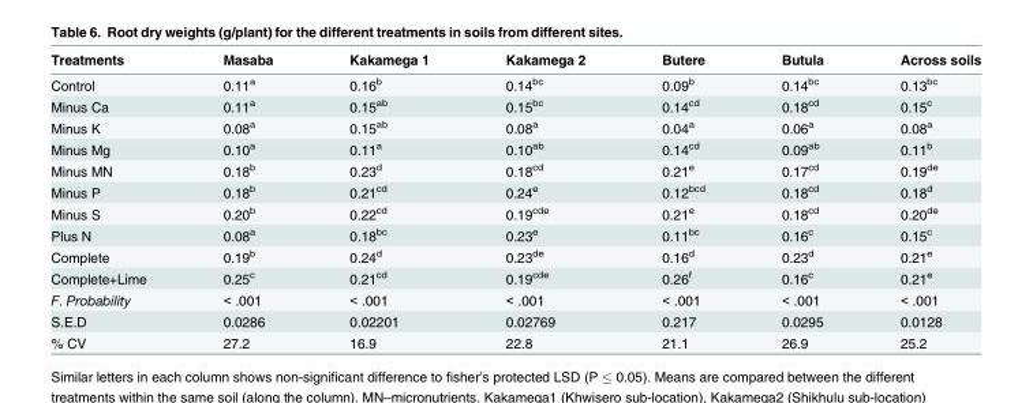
<table><thead><tr><td>Treatments</td><td>Masaba</td><td>Kakamega 1</td><td>Kakamega 2</td><td>Butere</td><td>Butula</td><td>Across soils</td></tr></thead><tbody><tr><td>Control</td><td>0.11<sup>a</sup></td><td>0.16<sup>b</sup></td><td>0.14<sup>bc</sup></td><td>0.09<sup>b</sup></td><td>0.14<sup>bc</sup></td><td>0.13<sup>bc</sup></td></tr><tr><td>Minus Ca</td><td>0.11<sup>a</sup></td><td>0.15<sup>ab</sup></td><td>0.15<sup>bc</sup></td><td>0.14<sup>cd</sup></td><td>0.18<sup>cd</sup></td><td>0.15<sup>c</sup></td></tr><tr><td>Minus K</td><td>0.08<sup>a</sup></td><td>0.15<sup>ab</sup></td><td>0.08<sup>a</sup></td><td>0.04<sup>a</sup></td><td>0.06<sup>a</sup></td><td>0.08<sup>a</sup></td></tr><tr><td>Minus Mg</td><td>0.10<sup>a</sup></td><td>0.11<sup>a</sup></td><td>0.10<sup>ab</sup></td><td>0.14<sup>cd</sup></td><td>0.09<sup>ab</sup></td><td>0.11<sup>b</sup></td></tr><tr><td>Minus MN</td><td>0.18<sup>b</sup></td><td>0.23<sup>d</sup></td><td>0.18<sup>cd</sup></td><td>0.21<sup>e</sup></td><td>0.17<sup>cd</sup></td><td>0.19<sup>de</sup></td></tr><tr><td>Minus P</td><td>0.18<sup>b</sup></td><td>0.21<sup>cd</sup></td><td>0.24<sup>e</sup></td><td>0.12<sup>bcd</sup></td><td>0.18<sup>cd</sup></td><td>0.18<sup>d</sup></td></tr><tr><td>Minus S</td><td>0.20<sup>b</sup></td><td>0.22<sup>cd</sup></td><td>0.19<sup>cde</sup></td><td>0.21<sup>e</sup></td><td>0.18<sup>cd</sup></td><td>0.20<sup>de</sup></td></tr><tr><td>Plus N</td><td>0.08<sup>a</sup></td><td>0.18<sup>bc</sup></td><td>0.23<sup>e</sup></td><td>0.11<sup>bc</sup></td><td>0.16<sup>c</sup></td><td>0.15<sup>c</sup></td></tr><tr><td>Complete</td><td>0.19<sup>b</sup></td><td>0.24<sup>d</sup></td><td>0.23<sup>de</sup></td><td>0.16<sup>d</sup></td><td>0.23<sup>d</sup></td><td>0.21<sup>e</sup></td></tr><tr><td>Complete+Lime</td><td>0.25<sup>c</sup></td><td>0.21<sup>cd</sup></td><td>0.19<sup>cde</sup></td><td>0.26<sup>f</sup></td><td>0.16<sup>c</sup></td><td>0.21<sup>e</sup></td></tr><tr><td>F. Probability</td><td>&lt; .001</td><td>&lt; .001</td><td>&lt; .001</td><td>&lt; .001</td><td>&lt; .001</td><td>&lt; .001</td></tr><tr><td>S.E.D</td><td>0.0286</td><td>0.02201</td><td>0.02769</td><td>0.217</td><td>0.0295</td><td>0.0128</td></tr><tr><td>% CV</td><td>27.2</td><td>16.9</td><td>22.8</td><td>21.1</td><td>26.9</td><td>25.2</td></tr></tbody></table>